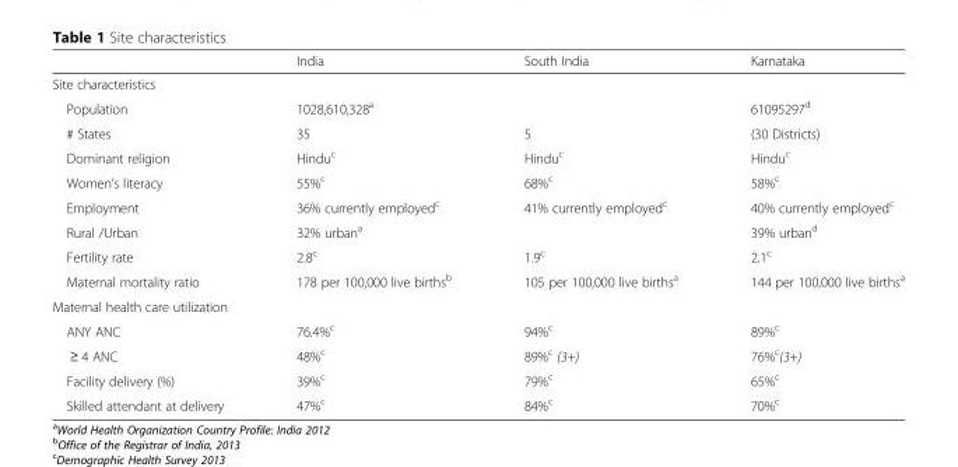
<table><thead><tr><td></td><td>India</td><td>South India</td><td>Karnataka</td></tr></thead><tbody><tr><td colspan="4">Site characteristics</td></tr><tr><td>Population</td><td>1028,610,328<sup>a</sup></td><td></td><td>61095297<sup>d</sup></td></tr><tr><td># States</td><td>35</td><td>5</td><td>(30 Districts)</td></tr><tr><td>Dominant religion</td><td>Hindu<sup>c</sup></td><td>Hindu<sup>c</sup></td><td>Hindu<sup>c</sup></td></tr><tr><td>Women’s literacy</td><td>55%<sup>c</sup></td><td>68%<sup>c</sup></td><td>58%<sup>c</sup></td></tr><tr><td>Employment</td><td>36% currently employed<sup>c</sup></td><td>41% currently employed<sup>c</sup></td><td>40% currently employed<sup>c</sup></td></tr><tr><td>Rural /Urban</td><td>32% urban<sup>a</sup></td><td></td><td>39% urban<sup>d</sup></td></tr><tr><td>Fertility rate</td><td>2.8<sup>c</sup></td><td>1.9<sup>c</sup></td><td>2.1<sup>c</sup></td></tr><tr><td>Maternal mortality ratio</td><td>178 per 100,000 live births<sup>b</sup></td><td>105 per 100,000 live births<sup>a</sup></td><td>144 per 100,000 live births<sup>a</sup></td></tr><tr><td colspan="4">Maternal health care utilization</td></tr><tr><td>ANY ANC</td><td>76.4%<sup>c</sup></td><td>94%<sup>c</sup></td><td>89%<sup>c</sup></td></tr><tr><td>≥ 4 ANC</td><td>48%<sup>c</sup></td><td>89%<sup>c</sup> (3+)</td><td>76%<sup>c</sup>(3+)</td></tr><tr><td>Facility delivery (%)</td><td>39%<sup>c</sup></td><td>79%<sup>c</sup></td><td>65%<sup>c</sup></td></tr><tr><td>Skilled attendant at delivery</td><td>47%<sup>c</sup></td><td>84%<sup>c</sup></td><td>70%<sup>c</sup></td></tr></tbody></table>